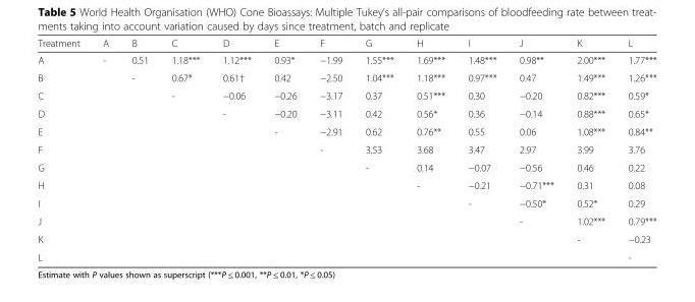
<table><thead><tr><td>Treatment</td><td>A</td><td>B</td><td>C</td><td>D</td><td>E</td><td>F</td><td>G</td><td>H</td><td>I</td><td>J</td><td>K</td><td>L</td></tr></thead><tbody><tr><td>A</td><td>-</td><td>0.51</td><td>1.18***</td><td>1.12***</td><td>0.93*</td><td>−1.99</td><td>1.55***</td><td>1.69***</td><td>1.48***</td><td>0.98**</td><td>2.00***</td><td>1.77***</td></tr><tr><td>B</td><td></td><td>-</td><td>0.67*</td><td>0.61†</td><td>0.42</td><td>−2.50</td><td>1.04***</td><td>1.18***</td><td>0.97***</td><td>0.47</td><td>1.49***</td><td>1.26***</td></tr><tr><td>C</td><td></td><td></td><td>-</td><td>−0.06</td><td>−0.26</td><td>−3.17</td><td>0.37</td><td>0.51***</td><td>0.30</td><td>−0.20</td><td>0.82***</td><td>0.59*</td></tr><tr><td>D</td><td></td><td></td><td></td><td>-</td><td>−0.20</td><td>−3.11</td><td>0.42</td><td>0.56*</td><td>0.36</td><td>−0.14</td><td>0.88***</td><td>0.65*</td></tr><tr><td>E</td><td></td><td></td><td></td><td></td><td>-</td><td>−2.91</td><td>0.62</td><td>0.76**</td><td>0.55</td><td>0.06</td><td>1.08***</td><td>0.84**</td></tr><tr><td>F</td><td></td><td></td><td></td><td></td><td></td><td>-</td><td>3.53</td><td>3.68</td><td>3.47</td><td>2.97</td><td>3.99</td><td>3.76</td></tr><tr><td>G</td><td></td><td></td><td></td><td></td><td></td><td></td><td>-</td><td>0.14</td><td>−0.07</td><td>−0.56</td><td>0.46</td><td>0.22</td></tr><tr><td>H</td><td></td><td></td><td></td><td></td><td></td><td></td><td></td><td>-</td><td>−0.21</td><td>−0.71***</td><td>0.31</td><td>0.08</td></tr><tr><td>I</td><td></td><td></td><td></td><td></td><td></td><td></td><td></td><td></td><td>-</td><td>−0.50*</td><td>0.52*</td><td>0.29</td></tr><tr><td>J</td><td></td><td></td><td></td><td></td><td></td><td></td><td></td><td></td><td></td><td>-</td><td>1.02***</td><td>0.79***</td></tr><tr><td>K</td><td></td><td></td><td></td><td></td><td></td><td></td><td></td><td></td><td></td><td></td><td>-</td><td>−0.23</td></tr><tr><td>L</td><td></td><td></td><td></td><td></td><td></td><td></td><td></td><td></td><td></td><td></td><td></td><td>-</td></tr></tbody></table>